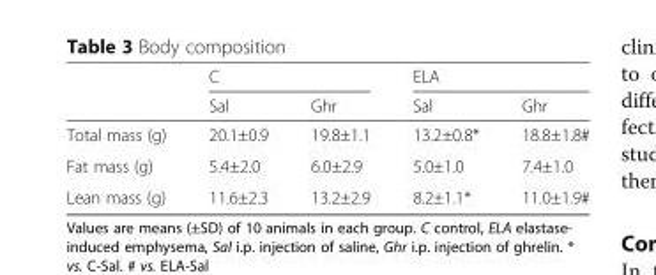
<table><thead><tr><td rowspan="2"></td><td colspan="2">C</td><td colspan="2">ELA</td></tr><tr><td>Sal</td><td>Ghr</td><td>Sal</td><td>Ghr</td></tr></thead><tbody><tr><td>Total mass (g)</td><td>20.1±0.9</td><td>19.8±1.1</td><td>13.2±0.8*</td><td>18.8±1.8#</td></tr><tr><td>Fat mass (g)</td><td>5.4±2.0</td><td>6.0±2.9</td><td>5.0±1.0</td><td>7.4±1.0</td></tr><tr><td>Lean mass (g)</td><td>11.6±2.3</td><td>13.2±2.9</td><td>8.2±1.1*</td><td>11.0±1.9#</td></tr></tbody></table>